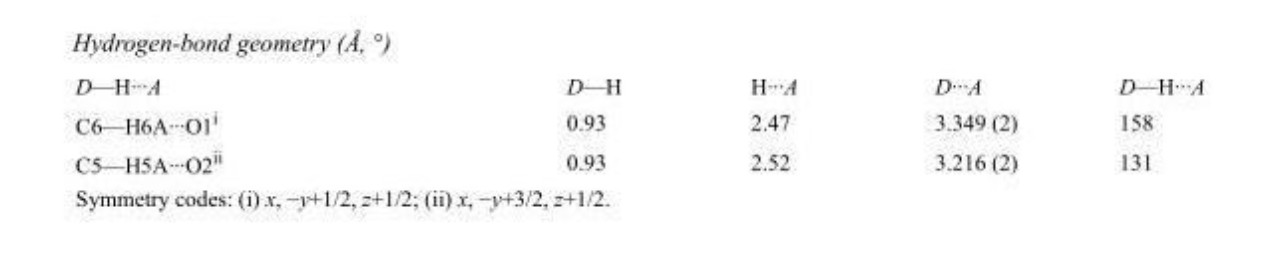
<table><tbody><tr><td>D—H···A</td><td>D—H</td><td>H···A</td><td>D···A</td><td>D—H···A</td></tr><tr><td>C6—H6A···O1<sup>i</sup></td><td>0.93</td><td>2.47</td><td>3.349 (2)</td><td>158</td></tr><tr><td>C5—H5A···O2<sup>ii</sup></td><td>0.93</td><td>2.52</td><td>3.216 (2)</td><td>131</td></tr></tbody></table>